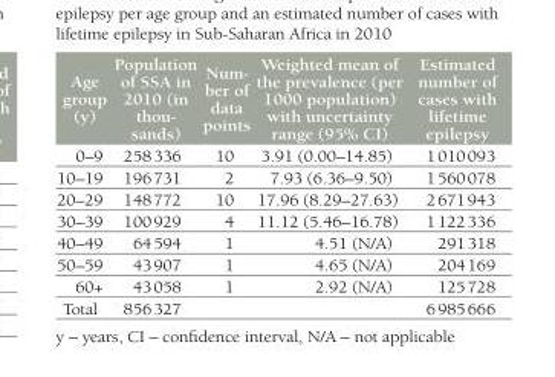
<table><thead><tr><td>Age group (y)</td><td>Population of SSA in 2010 (in thou- sands)</td><td>Num- ber of data points</td><td>Weighted mean of the prevalence (per 1000 population) with uncertainty range (95% CI)</td><td>Estimated number of cases with lifetime epilepsy</td></tr></thead><tbody><tr><td>0–9</td><td>258 336</td><td>10</td><td>3.91 (0.00–14.85)</td><td>1 010 093</td></tr><tr><td>10–19</td><td>196 731</td><td>2</td><td>7.93 (6.36–9.50)</td><td>1 560 078</td></tr><tr><td>20–29</td><td>148 772</td><td>10</td><td>17.96 (8.29–27.63)</td><td>2 671 943</td></tr><tr><td>30–39</td><td>100 929</td><td>4</td><td>11.12 (5.46–16.78)</td><td>1 122 336</td></tr><tr><td>40–49</td><td>64 594</td><td>1</td><td>4.51 (N/A)</td><td>291 318</td></tr><tr><td>50–59</td><td>43 907</td><td>1</td><td>4.65 (N/A)</td><td>204 169</td></tr><tr><td>60+</td><td>43 058</td><td>1</td><td>2.92 (N/A)</td><td>125 728</td></tr><tr><td>Total</td><td>856 327</td><td></td><td></td><td>6 985 666</td></tr></tbody></table>